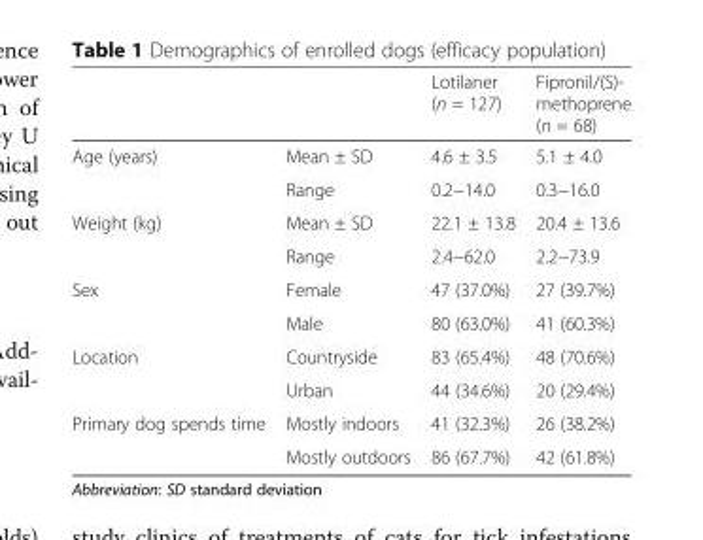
<table><thead><tr><td></td><td></td><td>Lotilaner (n = 127)</td><td>Fipronil/(S)- methoprene (n = 68)</td></tr></thead><tbody><tr><td rowspan="2">Age (years)</td><td>Mean ± SD</td><td>4.6 ± 3.5</td><td>5.1 ± 4.0</td></tr><tr><td>Range</td><td>0.2−14.0</td><td>0.3−16.0</td></tr><tr><td rowspan="2">Weight (kg)</td><td>Mean ± SD</td><td>22.1 ± 13.8</td><td>20.4 ± 13.6</td></tr><tr><td>Range</td><td>2.4−62.0</td><td>2.2−73.9</td></tr><tr><td rowspan="2">Sex</td><td>Female</td><td>47 (37.0%)</td><td>27 (39.7%)</td></tr><tr><td>Male</td><td>80 (63.0%)</td><td>41 (60.3%)</td></tr><tr><td rowspan="2">Location</td><td>Countryside</td><td>83 (65.4%)</td><td>48 (70.6%)</td></tr><tr><td>Urban</td><td>44 (34.6%)</td><td>20 (29.4%)</td></tr><tr><td rowspan="2">Primary dog spends time</td><td>Mostly indoors</td><td>41 (32.3%)</td><td>26 (38.2%)</td></tr><tr><td>Mostly outdoors</td><td>86 (67.7%)</td><td>42 (61.8%)</td></tr></tbody></table>